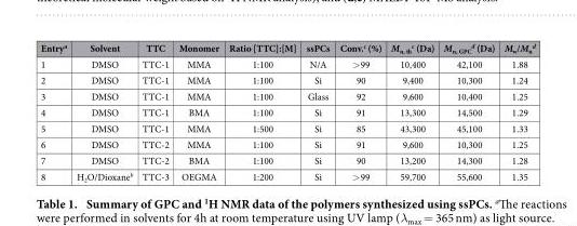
<table><thead><tr><td>Entry<sup>a</sup></td><td>Solvent</td><td>TTC</td><td>Monomer</td><td>Ratio [TTC]:[M]</td><td>ssPCs</td><td>Conv.<sup>c</sup> (%)</td><td>M<sub>n, th</sub> <sup>c</sup> (Da)</td><td>M<sub>n, GPC</sub> <sup>d</sup> (Da)</td><td>M<sub>w</sub>/M<sub>n</sub> <sup>d</sup></td></tr></thead><tbody><tr><td>1</td><td>DMSO</td><td>TTC-1</td><td>MMA</td><td>1:100</td><td>N/A</td><td>&gt; 99</td><td>10,400</td><td>42,100</td><td>1.88</td></tr><tr><td>2</td><td>DMSO</td><td>TTC-1</td><td>MMA</td><td>1:100</td><td>Si</td><td>90</td><td>9,400</td><td>10,300</td><td>1.24</td></tr><tr><td>3</td><td>DMSO</td><td>TTC-1</td><td>MMA</td><td>1:100</td><td>Glass</td><td>92</td><td>9,600</td><td>10,400</td><td>1.25</td></tr><tr><td>4</td><td>DMSO</td><td>TTC-1</td><td>BMA</td><td>1:100</td><td>Si</td><td>91</td><td>13,300</td><td>14,500</td><td>1.29</td></tr><tr><td>5</td><td>DMSO</td><td>TTC-1</td><td>MMA</td><td>1:500</td><td>Si</td><td>85</td><td>43,300</td><td>45,100</td><td>1.33</td></tr><tr><td>6</td><td>DMSO</td><td>TTC-2</td><td>MMA</td><td>1:100</td><td>Si</td><td>91</td><td>9,600</td><td>10,300</td><td>1.25</td></tr><tr><td>7</td><td>DMSO</td><td>TTC-2</td><td>BMA</td><td>1:100</td><td>Si</td><td>90</td><td>13,200</td><td>14,300</td><td>1.28</td></tr><tr><td>8</td><td>H<sub>2</sub>O/Dioxane<sup>b</sup></td><td>TTC-3</td><td>OEGMA</td><td>1:200</td><td>Si</td><td>&gt; 99</td><td>59,700</td><td>55,600</td><td>1.35</td></tr></tbody></table>